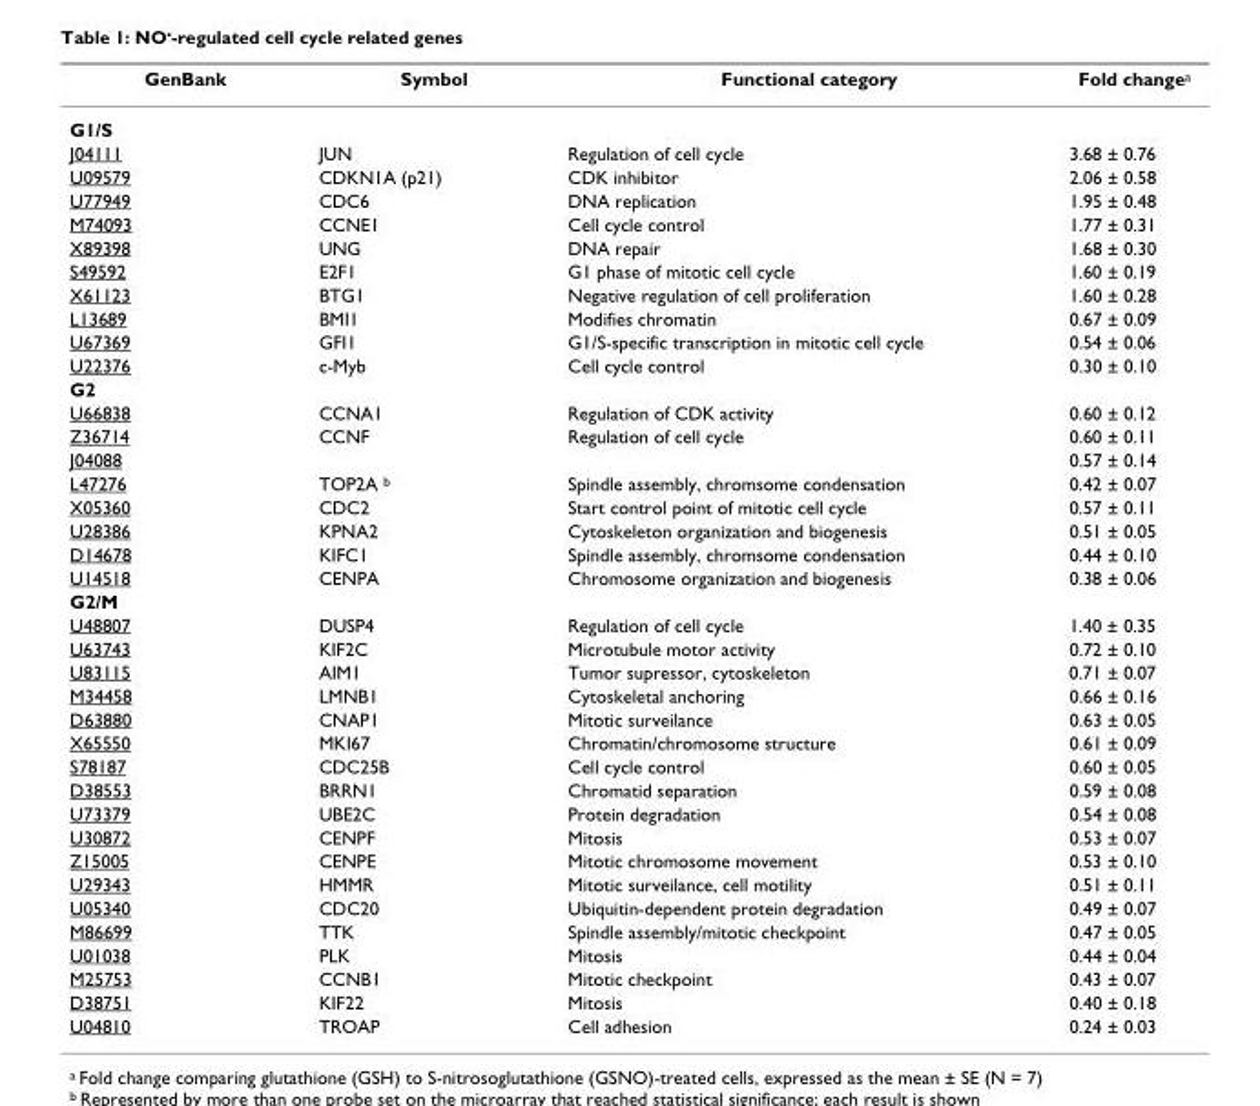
<table><thead><tr><td>GenBank</td><td>Symbol</td><td>Functional category</td><td>Fold change<sup>a</sup></td></tr></thead><tbody><tr><td colspan="4">G1/S</td></tr><tr><td>J04111</td><td>JUN</td><td>Regulation of cell cycle</td><td>3.68 ± 0.76</td></tr><tr><td>U09579</td><td>CDKN1A (p21)</td><td>CDK inhibitor</td><td>2.06 ± 0.58</td></tr><tr><td>U77949</td><td>CDC6</td><td>DNA replication</td><td>1.95 ± 0.48</td></tr><tr><td>M74093</td><td>CCNE1</td><td>Cell cycle control</td><td>1.77 ± 0.31</td></tr><tr><td>X89398</td><td>UNG</td><td>DNA repair</td><td>1.68 ± 0.30</td></tr><tr><td>S49592</td><td>E2F1</td><td>G1 phase of mitotic cell cycle</td><td>1.60 ± 0.19</td></tr><tr><td>X61123</td><td>BTG1</td><td>Negative regulation of cell proliferation</td><td>1.60 ± 0.28</td></tr><tr><td>L13689</td><td>BMI1</td><td>Modifies chromatin</td><td>0.67 ± 0.09</td></tr><tr><td>U67369</td><td>GFI1</td><td>G1/S-specific transcription in mitotic cell cycle</td><td>0.54 ± 0.06</td></tr><tr><td>U22376</td><td>c-Myb</td><td>Cell cycle control</td><td>0.30 ± 0.10</td></tr><tr><td colspan="4">G2</td></tr><tr><td>U66838</td><td>CCNA1</td><td>Regulation of CDK activity</td><td>0.60 ± 0.12</td></tr><tr><td>Z36714</td><td>CCNF</td><td>Regulation of cell cycle</td><td>0.60 ± 0.11</td></tr><tr><td>J04088</td><td></td><td></td><td>0.57 ± 0.14</td></tr><tr><td>L47276</td><td>TOP2A <sup>b</sup></td><td>Spindle assembly, chromsome condensation</td><td>0.42 ± 0.07</td></tr><tr><td>X05360</td><td>CDC2</td><td>Start control point of mitotic cell cycle</td><td>0.57 ± 0.11</td></tr><tr><td>U28386</td><td>KPNA2</td><td>Cytoskeleton organization and biogenesis</td><td>0.51 ± 0.05</td></tr><tr><td>D14678</td><td>KIFC1</td><td>Spindle assembly, chromsome condensation</td><td>0.44 ± 0.10</td></tr><tr><td>U14518</td><td>CENPA</td><td>Chromosome organization and biogenesis</td><td>0.38 ± 0.06</td></tr><tr><td colspan="4">G2/M</td></tr><tr><td>U48807</td><td>DUSP4</td><td>Regulation of cell cycle</td><td>1.40 ± 0.35</td></tr><tr><td>U63743</td><td>KIF2C</td><td>Microtubule motor activity</td><td>0.72 ± 0.10</td></tr><tr><td>U83115</td><td>AIM1</td><td>Tumor supressor, cytoskeleton</td><td>0.71 ± 0.07</td></tr><tr><td>M34458</td><td>LMNB1</td><td>Cytoskeletal anchoring</td><td>0.66 ± 0.16</td></tr><tr><td>D63880</td><td>CNAP1</td><td>Mitotic surveilance</td><td>0.63 ± 0.05</td></tr><tr><td>X65550</td><td>MKI67</td><td>Chromatin/chromosome structure</td><td>0.61 ± 0.09</td></tr><tr><td>S78187</td><td>CDC25B</td><td>Cell cycle control</td><td>0.60 ± 0.05</td></tr><tr><td>D38553</td><td>BRRN1</td><td>Chromatid separation</td><td>0.59 ± 0.08</td></tr><tr><td>U73379</td><td>UBE2C</td><td>Protein degradation</td><td>0.54 ± 0.08</td></tr><tr><td>U30872</td><td>CENPF</td><td>Mitosis</td><td>0.53 ± 0.07</td></tr><tr><td>Z15005</td><td>CENPE</td><td>Mitotic chromosome movement</td><td>0.53 ± 0.10</td></tr><tr><td>U29343</td><td>HMMR</td><td>Mitotic surveilance, cell motility</td><td>0.51 ± 0.11</td></tr><tr><td>U05340</td><td>CDC20</td><td>Ubiquitin-dependent protein degradation</td><td>0.49 ± 0.07</td></tr><tr><td>M86699</td><td>TTK</td><td>Spindle assembly/mitotic checkpoint</td><td>0.47 ± 0.05</td></tr><tr><td>U01038</td><td>PLK</td><td>Mitosis</td><td>0.44 ± 0.04</td></tr><tr><td>M25753</td><td>CCNB1</td><td>Mitotic checkpoint</td><td>0.43 ± 0.07</td></tr><tr><td>D38751</td><td>KIF22</td><td>Mitosis</td><td>0.40 ± 0.18</td></tr><tr><td>U04810</td><td>TROAP</td><td>Cell adhesion</td><td>0.24 ± 0.03</td></tr></tbody></table>